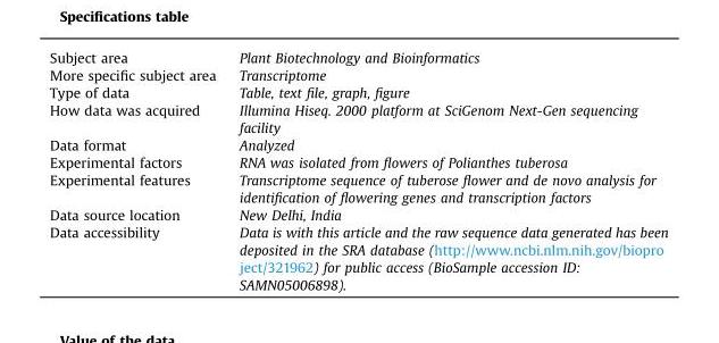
<table><tbody><tr><td>Subject area</td><td>Plant Biotechnology and Bioinformatics</td></tr><tr><td>More specific subject area</td><td>Transcriptome</td></tr><tr><td>Type of data</td><td>Table, text file, graph, figure</td></tr><tr><td>How data was acquired</td><td>Illumina Hiseq. 2000 platform at SciGenom Next-Gen sequencing facility</td></tr><tr><td>Data format</td><td>Analyzed</td></tr><tr><td>Experimental factors</td><td>RNA was isolated from flowers of Polianthes tuberosa</td></tr><tr><td>Experimental features</td><td>Transcriptome sequence of tuberose flower and de novo analysis for identification of flowering genes and transcription factors</td></tr><tr><td>Data source location</td><td>New Delhi, India</td></tr><tr><td>Data accessibility</td><td>Data is with this article and the raw sequence data generated has been deposited in the SRA database (http://www.ncbi.nlm.nih.gov/biopro ject/321962) for public access (BioSample accession ID: SAMN05006898).</td></tr></tbody></table>